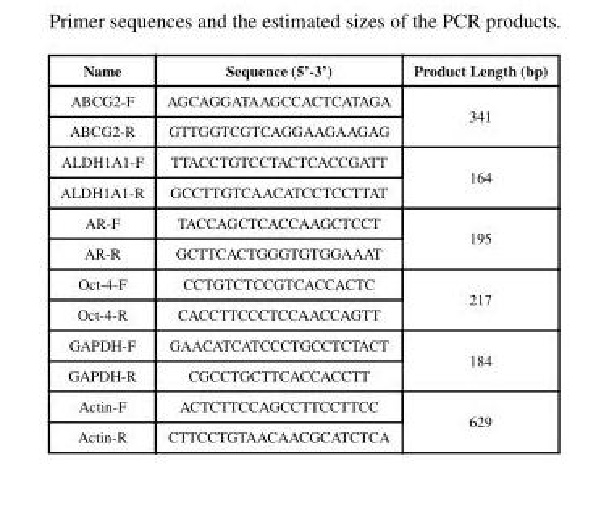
<table><thead><tr><td>Name</td><td>Sequence (5’-3’)</td><td>Product Length (bp)</td></tr></thead><tbody><tr><td>ABCG2-F</td><td>AGCAGGATAAGCCACTCATAGA</td><td rowspan="2">341</td></tr><tr><td>ABCG2-R</td><td>GTTGGTCGTCAGGAAGAAGAG</td></tr><tr><td>ALDH1A1-F</td><td>TTACCTGTCCTACTCACCGATT</td><td rowspan="2">164</td></tr><tr><td>ALDH1A1-R</td><td>GCCTTGTCAACATCCTCCTTAT</td></tr><tr><td>AR-F</td><td>TACCAGCTCACCAAGCTCCT</td><td rowspan="2">195</td></tr><tr><td>AR-R</td><td>GCTTCACTGGGTGTGGAAAT</td></tr><tr><td>Oct-4-F</td><td>CCTGTCTCCGTCACCACTC</td><td rowspan="2">217</td></tr><tr><td>Oct-4-R</td><td>CACCTTCCCTCCAACCAGTT</td></tr><tr><td>GAPDH-F</td><td>GAACATCATCCCTGCCTCTACT</td><td rowspan="2">184</td></tr><tr><td>GAPDH-R</td><td>CGCCTGCTTCACCACCTT</td></tr><tr><td>Actin-F</td><td>ACTCTTCCAGCCTTCCTTCC</td><td rowspan="2">629</td></tr><tr><td>Actin-R</td><td>CTTCCTGTAACAACGCATCTCA</td></tr></tbody></table>